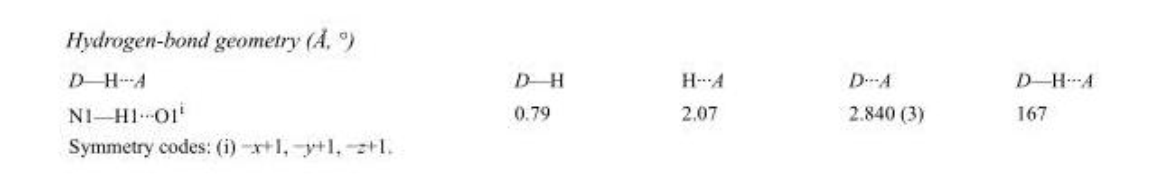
<table><tbody><tr><td>D—H···A</td><td>D—H</td><td>H···A</td><td>D···A</td><td>D—H···A</td></tr><tr><td>N1—H1···O1<sup>i</sup></td><td>0.79</td><td>2.07</td><td>2.840 (3)</td><td>167</td></tr></tbody></table>